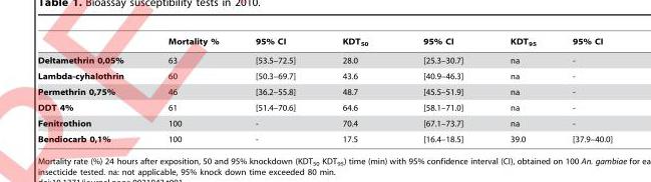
<table><thead><tr><td></td><td>Mortality %</td><td>95% CI</td><td>KDT50</td><td>95% CI</td><td>KDT95</td><td>95% CI</td></tr></thead><tbody><tr><td>Deltamethrin 0,05%</td><td>63</td><td>[53.5–72.5]</td><td>28.0</td><td>[25.3–30.7]</td><td>na</td><td>-</td></tr><tr><td>Lambda-cyhalothrin</td><td>60</td><td>[50.3–69.7]</td><td>43.6</td><td>[40.9–46.3]</td><td>na</td><td>-</td></tr><tr><td>Permethrin 0,75%</td><td>46</td><td>[36.2–55.8]</td><td>48.7</td><td>[45.5–51.9]</td><td>na</td><td>-</td></tr><tr><td>DDT 4%</td><td>61</td><td>[51.4–70.6]</td><td>64.6</td><td>[58.1–71.0]</td><td>na</td><td>-</td></tr><tr><td>Fenitrothion</td><td>100</td><td>-</td><td>70.4</td><td>[67.1–73.7]</td><td>na</td><td>-</td></tr><tr><td>Bendiocarb 0,1%</td><td>100</td><td>-</td><td>17.5</td><td>[16.4–18.5]</td><td>39.0</td><td>[37.9–40.0]</td></tr></tbody></table>